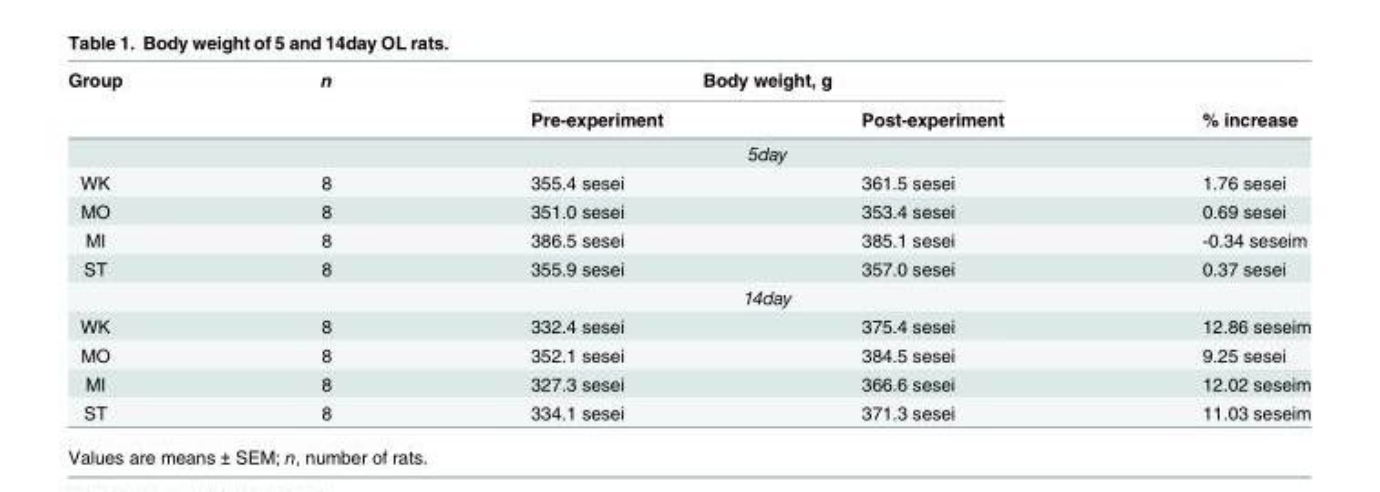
<table><thead><tr><td rowspan="2">Group</td><td rowspan="2">n</td><td colspan="2">Body weight, g</td><td rowspan="2">% increase</td></tr><tr><td>Pre-experiment</td><td>Post-experiment</td></tr></thead><tbody><tr><td></td><td></td><td colspan="2">5day</td><td></td></tr><tr><td>WK</td><td>8</td><td>355.4 sesei</td><td>361.5 sesei</td><td>1.76 sesei</td></tr><tr><td>MO</td><td>8</td><td>351.0 sesei</td><td>353.4 sesei</td><td>0.69 sesei</td></tr><tr><td>MI</td><td>8</td><td>386.5 sesei</td><td>385.1 sesei</td><td>-0.34 seseim</td></tr><tr><td rowspan="2">ST</td><td>8</td><td>355.9 sesei</td><td>357.0 sesei</td><td>0.37 sesei</td></tr><tr><td></td><td colspan="2">14day</td><td></td></tr><tr><td>WK</td><td>8</td><td>332.4 sesei</td><td>375.4 sesei</td><td>12.86 seseim</td></tr><tr><td>MO</td><td>8</td><td>352.1 sesei</td><td>384.5 sesei</td><td>9.25 sesei</td></tr><tr><td>MI</td><td>8</td><td>327.3 sesei</td><td>366.6 sesei</td><td>12.02 seseim</td></tr><tr><td>ST</td><td>8</td><td>334.1 sesei</td><td>371.3 sesei</td><td>11.03 seseim</td></tr></tbody></table>